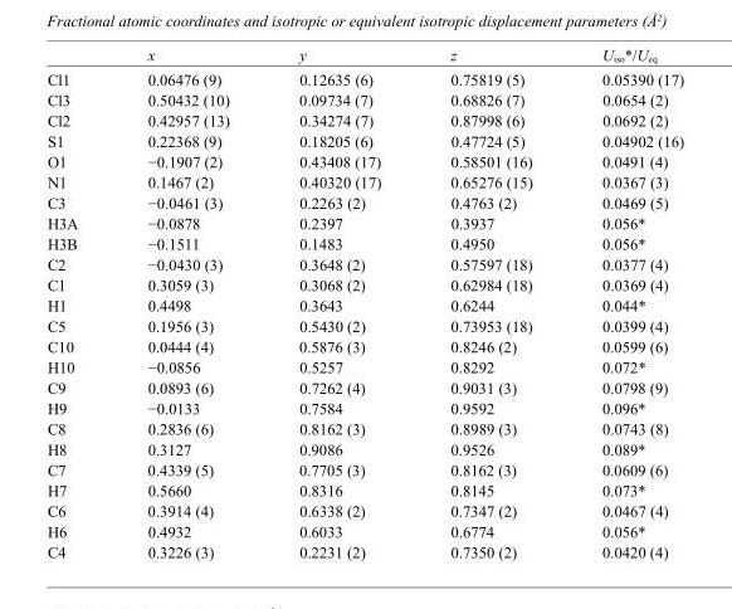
<table><thead><tr><td></td><td>x</td><td>y</td><td>z</td><td>U<sub>iso</sub>*/U<sub>eq</sub></td></tr></thead><tbody><tr><td>Cl1</td><td>0.06476 (9)</td><td>0.12635 (6)</td><td>0.75819 (5)</td><td>0.05390 (17)</td></tr><tr><td>Cl3</td><td>0.50432 (10)</td><td>0.09734 (7)</td><td>0.68826 (7)</td><td>0.0654 (2)</td></tr><tr><td>Cl2</td><td>0.42957 (13)</td><td>0.34274 (7)</td><td>0.87998 (6)</td><td>0.0692 (2)</td></tr><tr><td>S1</td><td>0.22368 (9)</td><td>0.18205 (6)</td><td>0.47724 (5)</td><td>0.04902 (16)</td></tr><tr><td>O1</td><td>−0.1907 (2)</td><td>0.43408 (17)</td><td>0.58501 (16)</td><td>0.0491 (4)</td></tr><tr><td>N1</td><td>0.1467 (2)</td><td>0.40320 (17)</td><td>0.65276 (15)</td><td>0.0367 (3)</td></tr><tr><td>C3</td><td>−0.0461 (3)</td><td>0.2263 (2)</td><td>0.4763 (2)</td><td>0.0469 (5)</td></tr><tr><td>H3A</td><td>−0.0878</td><td>0.2397</td><td>0.3937</td><td>0.056*</td></tr><tr><td>H3B</td><td>−0.1511</td><td>0.1483</td><td>0.4950</td><td>0.056*</td></tr><tr><td>C2</td><td>−0.0430 (3)</td><td>0.3648 (2)</td><td>0.57597 (18)</td><td>0.0377 (4)</td></tr><tr><td>C1</td><td>0.3059 (3)</td><td>0.3068 (2)</td><td>0.62984 (18)</td><td>0.0369 (4)</td></tr><tr><td>H1</td><td>0.4498</td><td>0.3643</td><td>0.6244</td><td>0.044*</td></tr><tr><td>C5</td><td>0.1956 (3)</td><td>0.5430 (2)</td><td>0.73953 (18)</td><td>0.0399 (4)</td></tr><tr><td>C10</td><td>0.0444 (4)</td><td>0.5876 (3)</td><td>0.8246 (2)</td><td>0.0599 (6)</td></tr><tr><td>H10</td><td>−0.0856</td><td>0.5257</td><td>0.8292</td><td>0.072*</td></tr><tr><td>C9</td><td>0.0893 (6)</td><td>0.7262 (4)</td><td>0.9031 (3)</td><td>0.0798 (9)</td></tr><tr><td>H9</td><td>−0.0133</td><td>0.7584</td><td>0.9592</td><td>0.096*</td></tr><tr><td>C8</td><td>0.2836 (6)</td><td>0.8162 (3)</td><td>0.8989 (3)</td><td>0.0743 (8)</td></tr><tr><td>H8</td><td>0.3127</td><td>0.9086</td><td>0.9526</td><td>0.089*</td></tr><tr><td>C7</td><td>0.4339 (5)</td><td>0.7705 (3)</td><td>0.8162 (3)</td><td>0.0609 (6)</td></tr><tr><td>H7</td><td>0.5660</td><td>0.8316</td><td>0.8145</td><td>0.073*</td></tr><tr><td>C6</td><td>0.3914 (4)</td><td>0.6338 (2)</td><td>0.7347 (2)</td><td>0.0467 (4)</td></tr><tr><td>H6</td><td>0.4932</td><td>0.6033</td><td>0.6774</td><td>0.056*</td></tr><tr><td>C4</td><td>0.3226 (3)</td><td>0.2231 (2)</td><td>0.7350 (2)</td><td>0.0420 (4)</td></tr></tbody></table>